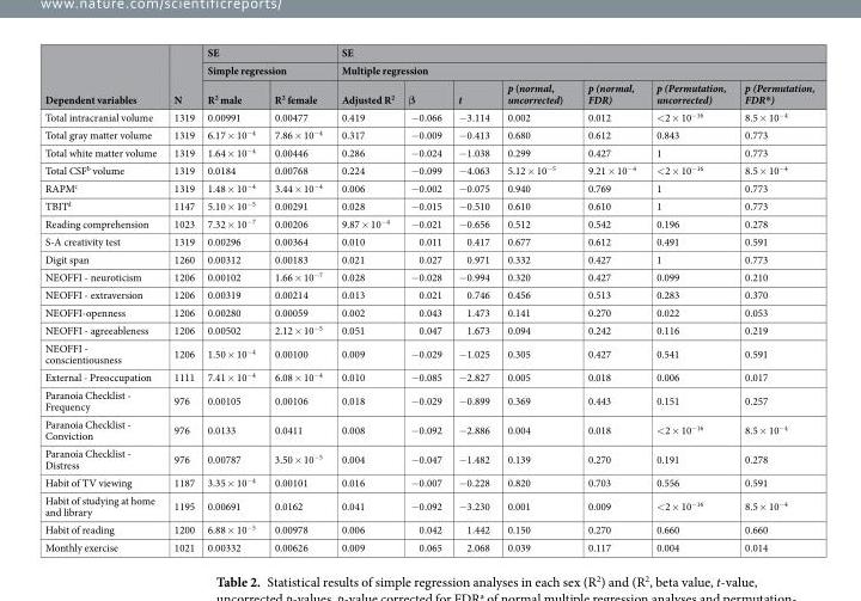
<table><thead><tr><td rowspan="3">Dependent variables</td><td rowspan="3">N</td><td rowspan="2" colspan="2">SE Simple regression</td><td rowspan="2" colspan="7">SE Multiple regression</td></tr><tr></tr><tr><td>R<sup>2</sup> male</td><td>R<sup>2</sup> female</td><td>Adjusted R<sup>2</sup></td><td>β</td><td>t</td><td>p (normal, uncorrected)</td><td>p (normal, FDR)</td><td>p (Permutation, uncorrected)</td><td>p (Permutation, FDR*)</td></tr></thead><tbody><tr><td>Total intracranial volume</td><td>1319</td><td>0.00991</td><td>0.00477</td><td>0.419</td><td>−0.066</td><td>−3.114</td><td>0.002</td><td>0.012</td><td>&lt;2 × 10<sup>−16</sup></td><td>8.5 × 10<sup>−4</sup></td></tr><tr><td>Total gray matter volume</td><td>1319</td><td>6.17 × 10<sup>−4</sup></td><td>7.86 × 10<sup>−4</sup></td><td>0.317</td><td>−0.009</td><td>−0.413</td><td>0.680</td><td>0.612</td><td>0.843</td><td>0.773</td></tr><tr><td>Total white matter volume</td><td>1319</td><td>1.64 × 10<sup>−4</sup></td><td>0.00446</td><td>0.286</td><td>−0.024</td><td>−1.038</td><td>0.299</td><td>0.427</td><td>1</td><td>0.773</td></tr><tr><td>Total CSF<sup>b</sup> volume</td><td>1319</td><td>0.0184</td><td>0.00768</td><td>0.224</td><td>−0.099</td><td>−4.063</td><td>5.12 × 10<sup>−5</sup></td><td>9.21 × 10<sup>−4</sup></td><td>&lt;2 × 10<sup>−16</sup></td><td>8.5 × 10<sup>−4</sup></td></tr><tr><td>RAPM<sup>c</sup></td><td>1319</td><td>1.48 × 10<sup>−4</sup></td><td>3.44 × 10<sup>−4</sup></td><td>0.006</td><td>−0.002</td><td>−0.075</td><td>0.940</td><td>0.769</td><td>1</td><td>0.773</td></tr><tr><td>TBIT<sup>d</sup></td><td>1147</td><td>5.10 × 10<sup>−5</sup></td><td>0.00291</td><td>0.028</td><td>−0.015</td><td>−0.510</td><td>0.610</td><td>0.610</td><td>1</td><td>0.773</td></tr><tr><td>Reading comprehension</td><td>1023</td><td>7.32 × 10<sup>−7</sup></td><td>0.00206</td><td>9.87 × 10<sup>−4</sup></td><td>−0.021</td><td>−0.656</td><td>0.512</td><td>0.542</td><td>0.196</td><td>0.278</td></tr><tr><td>S-A creativity test</td><td>1319</td><td>0.00296</td><td>0.00364</td><td>0.010</td><td>0.011</td><td>0.417</td><td>0.677</td><td>0.612</td><td>0.491</td><td>0.591</td></tr><tr><td>Digit span</td><td>1260</td><td>0.00312</td><td>0.00183</td><td>0.021</td><td>0.027</td><td>0.971</td><td>0.332</td><td>0.427</td><td>1</td><td>0.773</td></tr><tr><td>NEOFFI - neuroticism</td><td>1206</td><td>0.00102</td><td>1.66 × 10<sup>−7</sup></td><td>0.028</td><td>−0.028</td><td>−0.994</td><td>0.320</td><td>0.427</td><td>0.099</td><td>0.210</td></tr><tr><td>NEOFFI - extraversion</td><td>1206</td><td>0.00319</td><td>0.00214</td><td>0.013</td><td>0.021</td><td>0.746</td><td>0.456</td><td>0.513</td><td>0.283</td><td>0.370</td></tr><tr><td>NEOFFI-openness</td><td>1206</td><td>0.00280</td><td>0.00059</td><td>0.002</td><td>0.043</td><td>1.473</td><td>0.141</td><td>0.270</td><td>0.022</td><td>0.053</td></tr><tr><td>NEOFFI - agreeableness</td><td>1206</td><td>0.00502</td><td>2.12 × 10<sup>−5</sup></td><td>0.051</td><td>0.047</td><td>1.673</td><td>0.094</td><td>0.242</td><td>0.116</td><td>0.219</td></tr><tr><td>NEOFFI - conscientiousness</td><td>1206</td><td>1.50 × 10<sup>−4</sup></td><td>0.00100</td><td>0.009</td><td>−0.029</td><td>−1.025</td><td>0.305</td><td>0.427</td><td>0.541</td><td>0.591</td></tr><tr><td>External - Preoccupation</td><td>1111</td><td>7.41 × 10<sup>−4</sup></td><td>6.08 × 10<sup>−4</sup></td><td>0.010</td><td>−0.085</td><td>−2.827</td><td>0.005</td><td>0.018</td><td>0.006</td><td>0.017</td></tr><tr><td>Paranoia Checklist - Frequency</td><td>976</td><td>0.00105</td><td>0.00106</td><td>0.018</td><td>−0.029</td><td>−0.899</td><td>0.369</td><td>0.443</td><td>0.151</td><td>0.257</td></tr><tr><td>Paranoia Checklist - Conviction</td><td>976</td><td>0.0133</td><td>0.0411</td><td>0.008</td><td>−0.092</td><td>−2.886</td><td>0.004</td><td>0.018</td><td>&lt;2 × 10<sup>−16</sup></td><td>8.5 × 10<sup>−4</sup></td></tr><tr><td>Paranoia Checklist - Distress</td><td>976</td><td>0.00787</td><td>3.50 × 10<sup>−5</sup></td><td>0.004</td><td>−0.047</td><td>−1.482</td><td>0.139</td><td>0.270</td><td>0.191</td><td>0.278</td></tr><tr><td>Habit of TV viewing</td><td>1187</td><td>3.35 × 10<sup>−4</sup></td><td>0.00101</td><td>0.016</td><td>−0.007</td><td>−0.228</td><td>0.820</td><td>0.703</td><td>0.556</td><td>0.591</td></tr><tr><td>Habit of studying at home and library</td><td>1195</td><td>0.00691</td><td>0.0162</td><td>0.041</td><td>−0.092</td><td>−3.230</td><td>0.001</td><td>0.009</td><td>&lt;2 × 10<sup>−16</sup></td><td>8.5 × 10<sup>−4</sup></td></tr><tr><td>Habit of reading</td><td>1200</td><td>6.88 × 10<sup>−5</sup></td><td>0.00978</td><td>0.006</td><td>0.042</td><td>1.442</td><td>0.150</td><td>0.270</td><td>0.660</td><td>0.660</td></tr><tr><td>Monthly exercise</td><td>1021</td><td>0.00332</td><td>0.00626</td><td>0.009</td><td>0.065</td><td>2.068</td><td>0.039</td><td>0.117</td><td>0.004</td><td>0.014</td></tr></tbody></table>